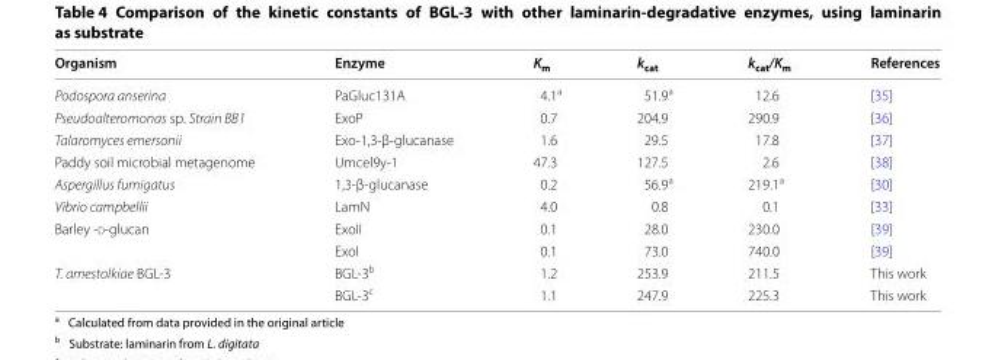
<table><thead><tr><td>Organism</td><td>Enzyme</td><td>K<sub>m</sub></td><td>k<sub>cat</sub></td><td>k<sub>cat</sub>/K<sub>m</sub></td><td>References</td></tr></thead><tbody><tr><td>Podospora anserina</td><td>PaGluc131A</td><td>4.1<sup>a</sup></td><td>51.9<sup>a</sup></td><td>12.6</td><td>[35]</td></tr><tr><td>Pseudoalteromonas sp. Strain BB1</td><td>ExoP</td><td>0.7</td><td>204.9</td><td>290.9</td><td>[36]</td></tr><tr><td>Talaromyces emersonii</td><td>Exo‑1,3‑β‑glucanase</td><td>1.6</td><td>29.5</td><td>17.8</td><td>[37]</td></tr><tr><td>Paddy soil microbial metagenome</td><td>Umcel9y‑1</td><td>47.3</td><td>127.5</td><td>2.6</td><td>[38]</td></tr><tr><td>Aspergillus fumigatus</td><td>1,3‑β‑glucanase</td><td>0.2</td><td>56.9<sup>a</sup></td><td>219.1<sup>a</sup></td><td>[30]</td></tr><tr><td>Vibrio campbellii</td><td>LamN</td><td>4.0</td><td>0.8</td><td>0.1</td><td>[33]</td></tr><tr><td rowspan="2">Barley ‑d‑glucan</td><td>ExoII</td><td>0.1</td><td>28.0</td><td>230.0</td><td>[39]</td></tr><tr><td>ExoI</td><td>0.1</td><td>73.0</td><td>740.0</td><td>[39]</td></tr><tr><td rowspan="2">T. amestolkiae BGL‑3</td><td>BGL‑3<sup>b</sup></td><td>1.2</td><td>253.9</td><td>211.5</td><td>This work</td></tr><tr><td>BGL‑3<sup>c</sup></td><td>1.1</td><td>247.9</td><td>225.3</td><td>This work</td></tr></tbody></table>